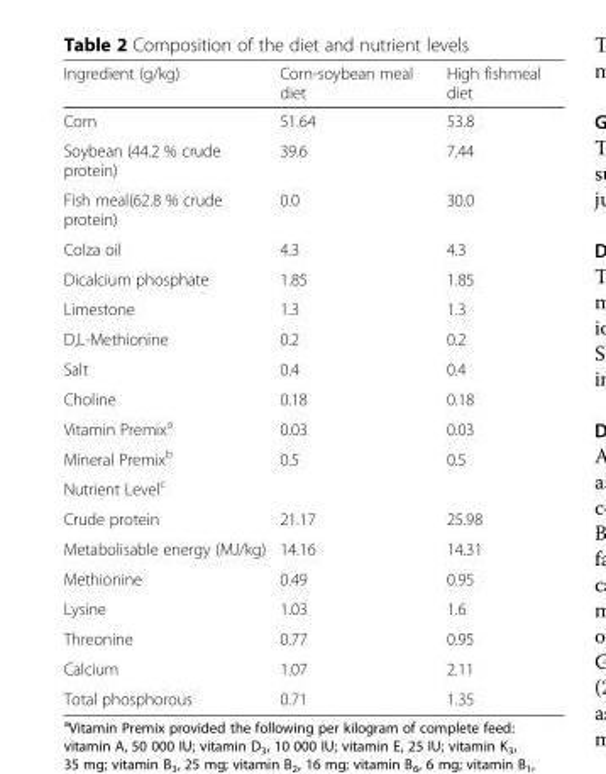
<table><thead><tr><td>Ingredient (g/kg)</td><td>Corn-soybean meal diet</td><td>High fishmeal diet</td></tr></thead><tbody><tr><td>Corn</td><td>51.64</td><td>53.8</td></tr><tr><td>Soybean (44.2 % crude protein)</td><td>39.6</td><td>7.44</td></tr><tr><td>Fish meal(62.8 % crude protein)</td><td>0.0</td><td>30.0</td></tr><tr><td>Colza oil</td><td>4.3</td><td>4.3</td></tr><tr><td>Dicalcium phosphate</td><td>1.85</td><td>1.85</td></tr><tr><td>Limestone</td><td>1.3</td><td>1.3</td></tr><tr><td>D,L-Methionine</td><td>0.2</td><td>0.2</td></tr><tr><td>Salt</td><td>0.4</td><td>0.4</td></tr><tr><td>Choline</td><td>0.18</td><td>0.18</td></tr><tr><td>Vitamin Premix<sup>a</sup></td><td>0.03</td><td>0.03</td></tr><tr><td>Mineral Premix<sup>b</sup></td><td>0.5</td><td>0.5</td></tr><tr><td colspan="3">Nutrient Level<sup>c</sup></td></tr><tr><td>Crude protein</td><td>21.17</td><td>25.98</td></tr><tr><td>Metabolisable energy (MJ/kg)</td><td>14.16</td><td>14.31</td></tr><tr><td>Methionine</td><td>0.49</td><td>0.95</td></tr><tr><td>Lysine</td><td>1.03</td><td>1.6</td></tr><tr><td>Threonine</td><td>0.77</td><td>0.95</td></tr><tr><td>Calcium</td><td>1.07</td><td>2.11</td></tr><tr><td>Total phosphorous</td><td>0.71</td><td>1.35</td></tr></tbody></table>